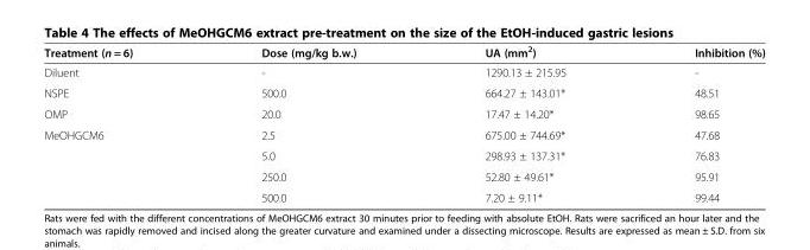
<table><thead><tr><td>Treatment (n = 6)</td><td>Dose (mg/kg b.w.)</td><td>UA (mm<sup>2</sup>)</td><td>Inhibition (%)</td></tr></thead><tbody><tr><td>Diluent</td><td>-</td><td>1290.13 ± 215.95</td><td>-</td></tr><tr><td>NSPE</td><td>500.0</td><td>664.27 ± 143.01*</td><td>48.51</td></tr><tr><td>OMP</td><td>20.0</td><td>17.47 ± 14.20*</td><td>98.65</td></tr><tr><td rowspan="4">MeOHGCM6</td><td>2.5</td><td>675.00 ± 744.69*</td><td>47.68</td></tr><tr><td>5.0</td><td>298.93 ± 137.31*</td><td>76.83</td></tr><tr><td>250.0</td><td>52.80 ± 49.61*</td><td>95.91</td></tr><tr><td>500.0</td><td>7.20 ± 9.11*</td><td>99.44</td></tr></tbody></table>